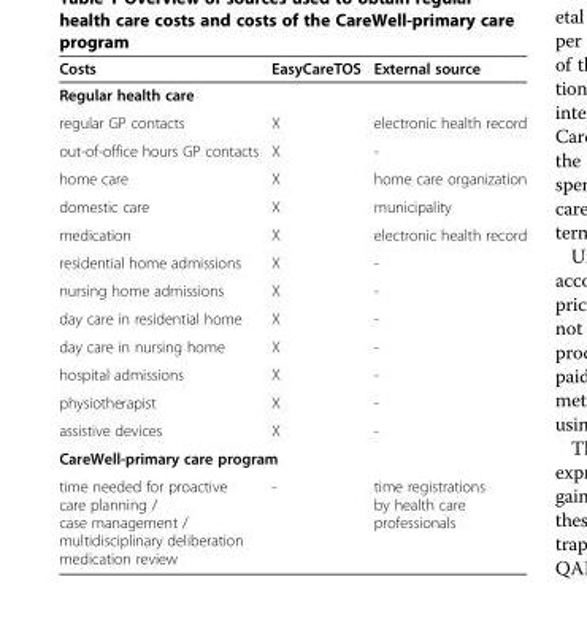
<table><thead><tr><td>Costs</td><td>EasyCareTOS</td><td>External source</td></tr></thead><tbody><tr><td colspan="3">Regular health care</td></tr><tr><td>regular GP contacts</td><td>X</td><td>electronic health record</td></tr><tr><td>out-of-office hours GP contacts</td><td>X</td><td>-</td></tr><tr><td>home care</td><td>X</td><td>home care organization</td></tr><tr><td>domestic care</td><td>X</td><td>municipality</td></tr><tr><td>medication</td><td>X</td><td>electronic health record</td></tr><tr><td>residential home admissions</td><td>X</td><td>-</td></tr><tr><td>nursing home admissions</td><td>X</td><td>-</td></tr><tr><td>day care in residential home</td><td>X</td><td>-</td></tr><tr><td>day care in nursing home</td><td>X</td><td>-</td></tr><tr><td>hospital admissions</td><td>X</td><td>-</td></tr><tr><td>physiotherapist</td><td>X</td><td>-</td></tr><tr><td>assistive devices</td><td>X</td><td>-</td></tr><tr><td colspan="3">CareWell-primary care program</td></tr><tr><td>time needed for proactive care planning / case management / multidisciplinary deliberation medication review</td><td>-</td><td>time registrations by health care professionals</td></tr></tbody></table>